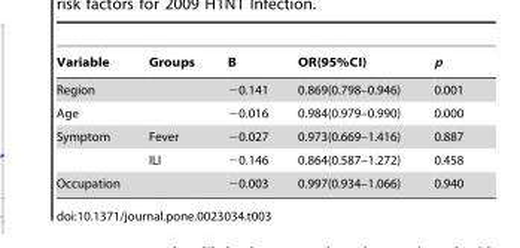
<table><thead><tr><td>Variable</td><td>Groups</td><td>B</td><td>OR(95%CI)</td><td>p</td></tr></thead><tbody><tr><td>Region</td><td></td><td>−0.141</td><td>0.869(0.798–0.946)</td><td>0.001</td></tr><tr><td>Age</td><td></td><td>−0.016</td><td>0.984(0.979–0.990)</td><td>0.000</td></tr><tr><td rowspan="2">Symptom</td><td>Fever</td><td>−0.027</td><td>0.973(0.669–1.416)</td><td>0.887</td></tr><tr><td>ILI</td><td>−0.146</td><td>0.864(0.587–1.272)</td><td>0.458</td></tr><tr><td>Occupation</td><td></td><td>−0.003</td><td>0.997(0.934–1.066)</td><td>0.940</td></tr></tbody></table>